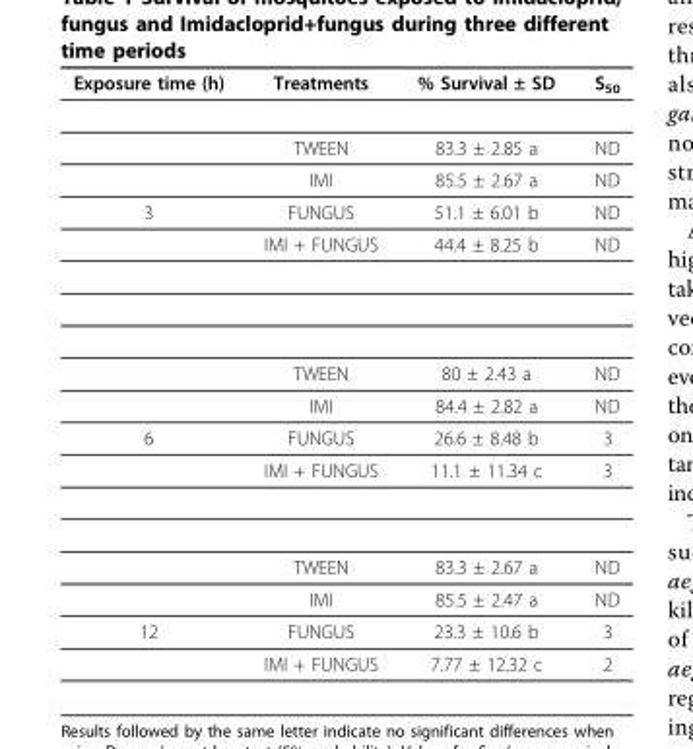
<table><thead><tr><td>Exposure time (h)</td><td>Treatments</td><td>% Survival ± SD</td><td>S50</td></tr></thead><tbody><tr><td></td><td>TWEEN</td><td>83.3 ± 2.85 a</td><td>ND</td></tr><tr><td></td><td>IMI</td><td>85.5 ± 2.67 a</td><td>ND</td></tr><tr><td rowspan="4">3</td><td>FUNGUS</td><td>51.1 ± 6.01 b</td><td>ND</td></tr><tr><td>IMI + FUNGUS</td><td>44.4 ± 8.25 b</td><td>ND</td></tr><tr><td>TWEEN</td><td>80 ± 2.43 a</td><td>ND</td></tr><tr><td>IMI</td><td>84.4 ± 2.82 a</td><td>ND</td></tr><tr><td rowspan="4">6</td><td>FUNGUS</td><td>26.6 ± 8.48 b</td><td>3</td></tr><tr><td>IMI + FUNGUS</td><td>11.1 ± 11.34 c</td><td>3</td></tr><tr><td>TWEEN</td><td>83.3 ± 2.67 a</td><td>ND</td></tr><tr><td>IMI</td><td>85.5 ± 2.47 a</td><td>ND</td></tr><tr><td rowspan="2">12</td><td>FUNGUS</td><td>23.3 ± 10.6 b</td><td>3</td></tr><tr><td>IMI + FUNGUS</td><td>7.77 ± 12.32 c</td><td>2</td></tr></tbody></table>